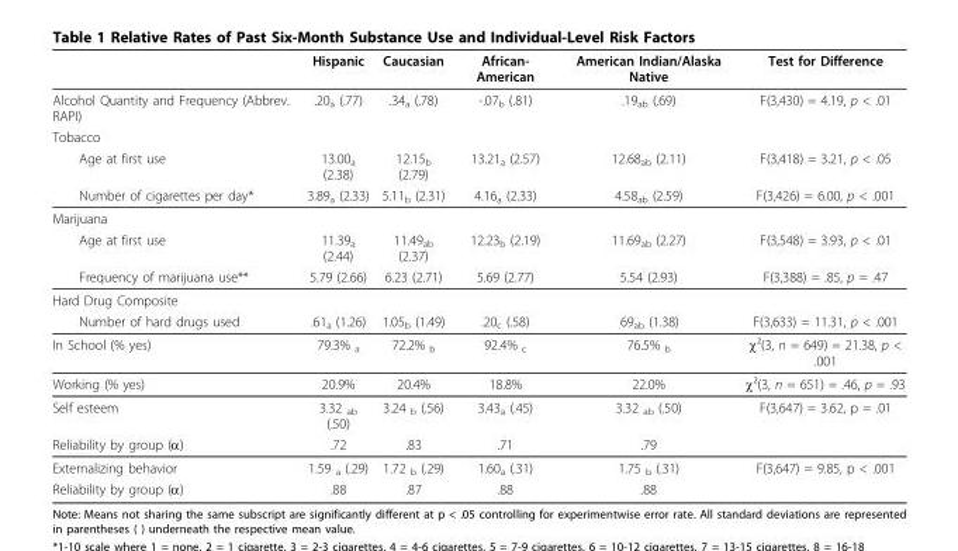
<table><thead><tr><td></td><td>Hispanic</td><td>Caucasian</td><td>African- American</td><td>American Indian/Alaska Native</td><td>Test for Difference</td></tr></thead><tbody><tr><td>Alcohol Quantity and Frequency (Abbrev. RAPI)</td><td>.20<sub>a</sub> (.77)</td><td>.34<sub>a</sub> (.78)</td><td>-.07<sub>b</sub> (.81)</td><td>.19<sub>ab</sub> (.69)</td><td>F(3,430) = 4.19, p &lt; .01</td></tr><tr><td colspan="6">Tobacco</td></tr><tr><td>Age at first use</td><td>13.00<sub>a</sub> (2.38)</td><td>12.15<sub>b</sub> (2.79)</td><td>13.21<sub>a</sub> (2.57)</td><td>12.68<sub>ab</sub> (2.11)</td><td>F(3,418) = 3.21, p &lt; .05</td></tr><tr><td>Number of cigarettes per day*</td><td>3.89<sub>a</sub> (2.33)</td><td>5.11<sub>b</sub> (2.31)</td><td>4.16<sub>a</sub> (2.33)</td><td>4.58<sub>ab</sub> (2.59)</td><td>F(3,426) = 6.00, p &lt; .001</td></tr><tr><td colspan="6">Marijuana</td></tr><tr><td>Age at first use</td><td>11.39<sub>a</sub> (2.44)</td><td>11.49<sub>ab</sub> (2.37)</td><td>12.23<sub>b</sub> (2.19)</td><td>11.69<sub>ab</sub> (2.27)</td><td>F(3,548) = 3.93, p &lt; .01</td></tr><tr><td>Frequency of marijuana use**</td><td>5.79 (2.66)</td><td>6.23 (2.71)</td><td>5.69 (2.77)</td><td>5.54 (2.93)</td><td>F(3,388) = .85, p = .47</td></tr><tr><td colspan="6">Hard Drug Composite</td></tr><tr><td>Number of hard drugs used</td><td>.61<sub>a</sub> (1.26)</td><td>1.05<sub>b</sub> (1.49)</td><td>.20<sub>c</sub> (.58)</td><td><sub>.</sub>69<sub>ab</sub> (1.38)</td><td>F(3,633) = 11.31, p &lt; .001</td></tr><tr><td>In School (% yes)</td><td>79.3% <sub>a</sub></td><td>72.2% <sub>b</sub></td><td>92.4% <sub>c</sub></td><td>76.5% <sub>b</sub></td><td>χ²(3, n = 649) = 21.38, p &lt; .001</td></tr><tr><td>Working (% yes)</td><td>20.9%</td><td>20.4%</td><td>18.8%</td><td>22.0%</td><td>χ²(3, n = 651) = .46, p = .93</td></tr><tr><td>Self esteem</td><td>3.32 <sub>ab</sub> (.50)</td><td>3.24 <sub>b</sub> (.56)</td><td>3.43<sub>a</sub> (.45)</td><td>3.32 <sub>ab</sub> (.50)</td><td>F(3,647) = 3.62, p = .01</td></tr><tr><td>Reliability by group (α)</td><td>.72</td><td>.83</td><td>.71</td><td>.79</td><td></td></tr><tr><td>Externalizing behavior</td><td>1.59 <sub>a</sub> (.29)</td><td>1.72 <sub>b</sub> (.29)</td><td>1.60<sub>a</sub> (.31)</td><td>1.75 <sub>b</sub> (.31)</td><td>F(3,647) = 9.85, p &lt; .001</td></tr><tr><td>Reliability by group (α)</td><td>.88</td><td>.87</td><td>.88</td><td>.88</td><td></td></tr></tbody></table>